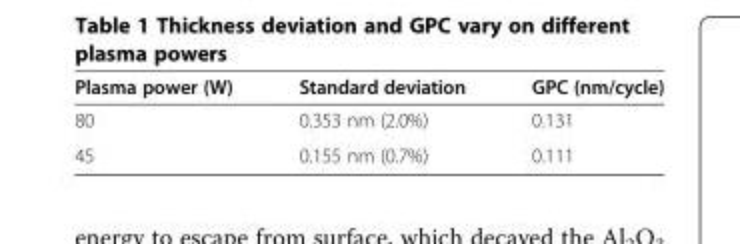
<table><thead><tr><td>Plasma power (W)</td><td>Standard deviation</td><td>GPC (nm/cycle)</td></tr></thead><tbody><tr><td>80</td><td>0.353 nm (2.0%)</td><td>0.131</td></tr><tr><td>45</td><td>0.155 nm (0.7%)</td><td>0.111</td></tr></tbody></table>